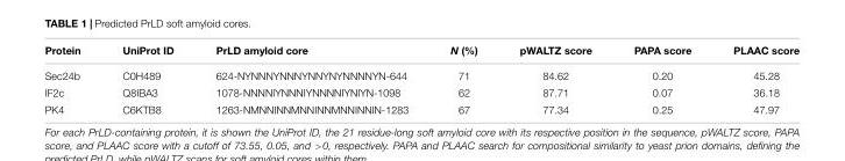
<table><thead><tr><td>Protein</td><td>UniProt ID</td><td>PrLD amyloid core</td><td>N (%)</td><td>pWALTZ score</td><td>PAPA score</td><td>PLAAC score</td></tr></thead><tbody><tr><td>Sec24b</td><td>C0H489</td><td>624-NYNNNYNNNYNNYNYNNNNYN-644</td><td>71</td><td>84.62</td><td>0.20</td><td>45.28</td></tr><tr><td>IF2c</td><td>Q8IBA3</td><td>1078-NNNNIYNNNIYNNNNIYNIYN-1098</td><td>62</td><td>87.71</td><td>0.07</td><td>36.18</td></tr><tr><td>PK4</td><td>C6KTB8</td><td>1263-NMNNINNMNNINNMNNINNIN-1283</td><td>67</td><td>77.34</td><td>0.25</td><td>47.97</td></tr></tbody></table>